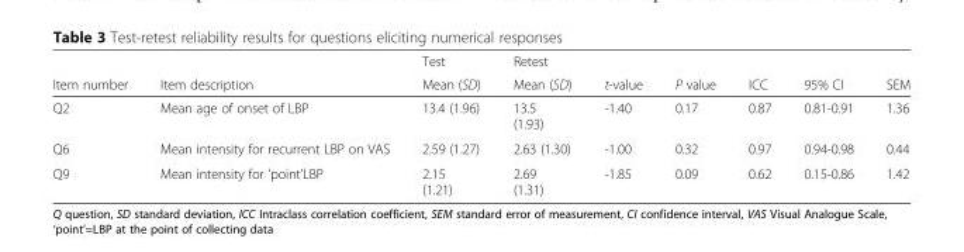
<table><thead><tr><td rowspan="2">Item number</td><td rowspan="2">Item description</td><td rowspan="2">Test Mean (SD)</td><td rowspan="2">Retest Mean (SD)</td><td rowspan="2">t-value</td><td rowspan="2">P value</td><td rowspan="2">ICC</td><td rowspan="2">95% CI</td><td rowspan="2">SEM</td></tr><tr></tr></thead><tbody><tr><td>Q2</td><td>Mean age of onset of LBP</td><td>13.4 (1.96)</td><td>13.5 (1.93)</td><td>-1.40</td><td>0.17</td><td>0.87</td><td>0.81-0.91</td><td>1.36</td></tr><tr><td>Q6</td><td>Mean intensity for recurrent LBP on VAS</td><td>2.59 (1.27)</td><td>2.63 (1.30)</td><td>-1.00</td><td>0.32</td><td>0.97</td><td>0.94-0.98</td><td>0.44</td></tr><tr><td>Q9</td><td>Mean intensity for ‘point’LBP</td><td>2.15 (1.21)</td><td>2.69 (1.31)</td><td>-1.85</td><td>0.09</td><td>0.62</td><td>0.15-0.86</td><td>1.42</td></tr></tbody></table>